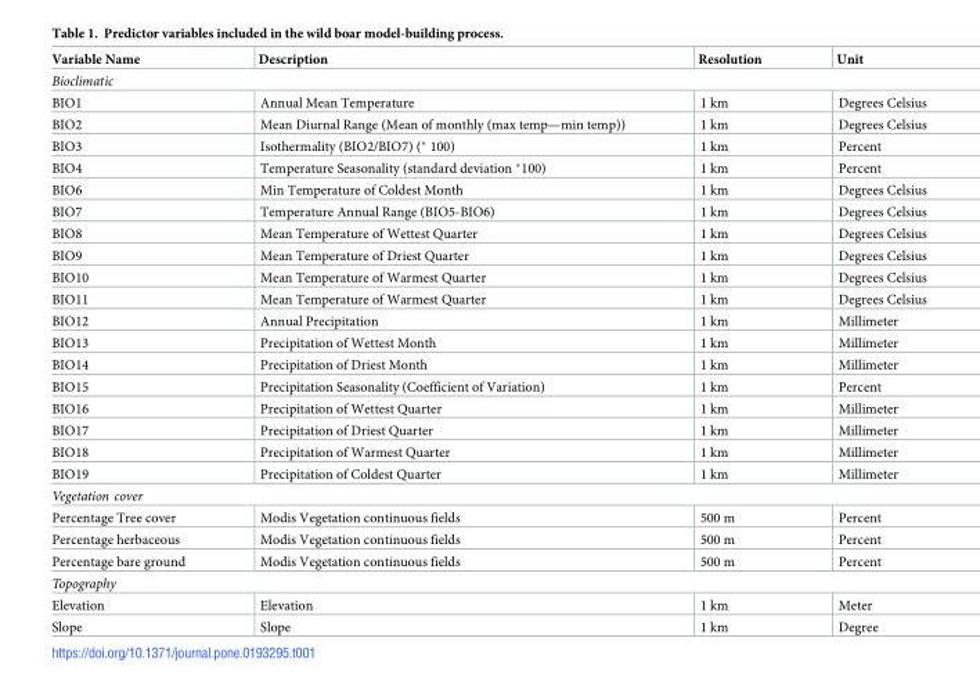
<table><thead><tr><td>Variable Name</td><td>Description</td><td>Resolution</td><td>Unit</td></tr></thead><tbody><tr><td colspan="4">Bioclimatic</td></tr><tr><td>BIO1</td><td>Annual Mean Temperature</td><td>1 km</td><td>Degrees Celsius</td></tr><tr><td>BIO2</td><td>Mean Diurnal Range (Mean of monthly (max temp—min temp))</td><td>1 km</td><td>Degrees Celsius</td></tr><tr><td>BIO3</td><td>Isothermality (BIO2/BIO7) (* 100)</td><td>1 km</td><td>Percent</td></tr><tr><td>BIO4</td><td>Temperature Seasonality (standard deviation *100)</td><td>1 km</td><td>Percent</td></tr><tr><td>BIO6</td><td>Min Temperature of Coldest Month</td><td>1 km</td><td>Degrees Celsius</td></tr><tr><td>BIO7</td><td>Temperature Annual Range (BIO5-BIO6)</td><td>1 km</td><td>Degrees Celsius</td></tr><tr><td>BIO8</td><td>Mean Temperature of Wettest Quarter</td><td>1 km</td><td>Degrees Celsius</td></tr><tr><td>BIO9</td><td>Mean Temperature of Driest Quarter</td><td>1 km</td><td>Degrees Celsius</td></tr><tr><td>BIO10</td><td>Mean Temperature of Warmest Quarter</td><td>1 km</td><td>Degrees Celsius</td></tr><tr><td>BIO11</td><td>Mean Temperature of Warmest Quarter</td><td>1 km</td><td>Degrees Celsius</td></tr><tr><td>BIO12</td><td>Annual Precipitation</td><td>1 km</td><td>Millimeter</td></tr><tr><td>BIO13</td><td>Precipitation of Wettest Month</td><td>1 km</td><td>Millimeter</td></tr><tr><td>BIO14</td><td>Precipitation of Driest Month</td><td>1 km</td><td>Millimeter</td></tr><tr><td>BIO15</td><td>Precipitation Seasonality (Coefficient of Variation)</td><td>1 km</td><td>Percent</td></tr><tr><td>BIO16</td><td>Precipitation of Wettest Quarter</td><td>1 km</td><td>Millimeter</td></tr><tr><td>BIO17</td><td>Precipitation of Driest Quarter</td><td>1 km</td><td>Millimeter</td></tr><tr><td>BIO18</td><td>Precipitation of Warmest Quarter</td><td>1 km</td><td>Millimeter</td></tr><tr><td>BIO19</td><td>Precipitation of Coldest Quarter</td><td>1 km</td><td>Millimeter</td></tr><tr><td colspan="4">Vegetation cover</td></tr><tr><td>Percentage Tree cover</td><td>Modis Vegetation continuous fields</td><td>500 m</td><td>Percent</td></tr><tr><td>Percentage herbaceous</td><td>Modis Vegetation continuous fields</td><td>500 m</td><td>Percent</td></tr><tr><td>Percentage bare ground</td><td>Modis Vegetation continuous fields</td><td>500 m</td><td>Percent</td></tr><tr><td colspan="4">Topography</td></tr><tr><td>Elevation</td><td>Elevation</td><td>1 km</td><td>Meter</td></tr><tr><td>Slope</td><td>Slope</td><td>1 km</td><td>Degree</td></tr></tbody></table>